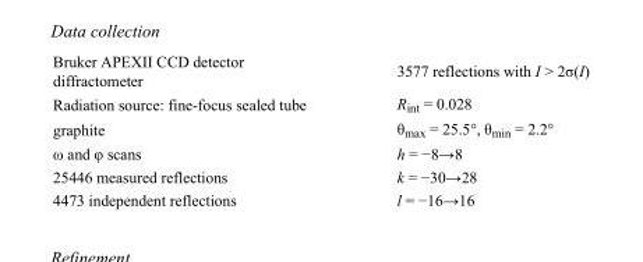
<table><tbody><tr><td>Bruker APEXII CCD detector diffractometer</td><td>3577 reflections with I &gt; 2σ(I)</td></tr><tr><td>Radiation source: fine-focus sealed tube</td><td>R<sub>int</sub> = 0.028</td></tr><tr><td>graphite</td><td>θ<sub>max</sub> = 25.5°, θ<sub>min</sub> = 2.2°</td></tr><tr><td>ω and φ scans</td><td>h = −8→8</td></tr><tr><td>25446 measured reflections</td><td>k = −30→28</td></tr><tr><td>4473 independent reflections</td><td>l = −16→16</td></tr></tbody></table>